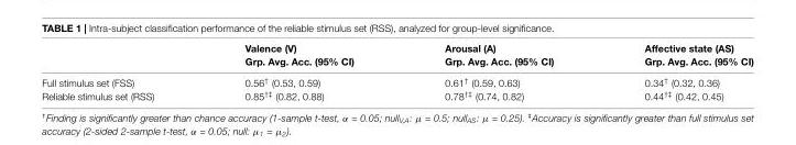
<table><thead><tr><td rowspan="2"></td><td rowspan="2">Valence (V) Grp. Avg. Acc. (95% CI)</td><td rowspan="2">Arousal (A) Grp. Avg. Acc. (95% CI)</td><td rowspan="2">Affective state (AS) Grp. Avg. Acc. (95% CI)</td></tr><tr></tr></thead><tbody><tr><td>Full stimulus set (FSS)</td><td>0.56<sup>†</sup> (0.53, 0.59)</td><td>0.61<sup>†</sup> (0.59, 0.63)</td><td>0.34<sup>†</sup> (0.32, 0.36)</td></tr><tr><td>Reliable stimulus set (RSS)</td><td>0.85<sup>†‡</sup> (0.82, 0.88)</td><td>0.78<sup>†‡</sup> (0.74, 0.82)</td><td>0.44<sup>†‡</sup> (0.42, 0.45)</td></tr></tbody></table>